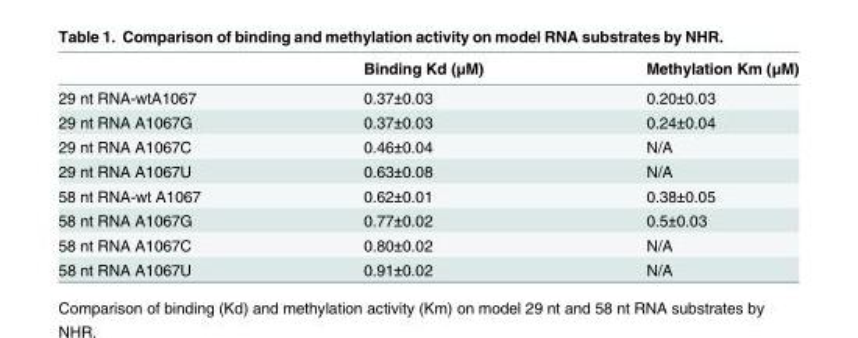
<table><thead><tr><td></td><td>Binding Kd (μM)</td><td>Methylation Km (μM)</td></tr></thead><tbody><tr><td>29 nt RNA-wtA1067</td><td>0.37±0.03</td><td>0.20±0.03</td></tr><tr><td>29 nt RNA A1067G</td><td>0.37±0.03</td><td>0.24±0.04</td></tr><tr><td>29 nt RNA A1067C</td><td>0.46±0.04</td><td>N/A</td></tr><tr><td>29 nt RNA A1067U</td><td>0.63±0.08</td><td>N/A</td></tr><tr><td>58 nt RNA-wt A1067</td><td>0.62±0.01</td><td>0.38±0.05</td></tr><tr><td>58 nt RNA A1067G</td><td>0.77±0.02</td><td>0.5±0.03</td></tr><tr><td>58 nt RNA A1067C</td><td>0.80±0.02</td><td>N/A</td></tr><tr><td>58 nt RNA A1067U</td><td>0.91±0.02</td><td>N/A</td></tr></tbody></table>